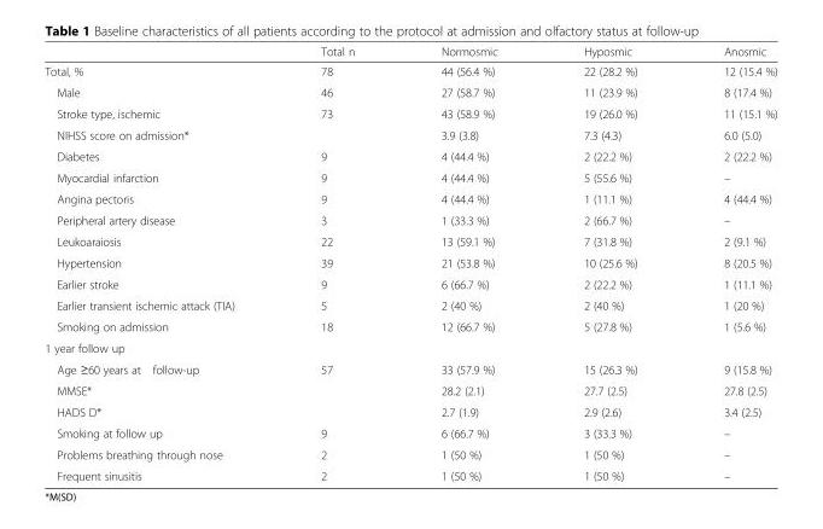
<table><thead><tr><td></td><td>Total n</td><td>Normosmic</td><td>Hyposmic</td><td>Anosmic</td></tr></thead><tbody><tr><td>Total, %</td><td>78</td><td>44 (56.4 %)</td><td>22 (28.2 %)</td><td>12 (15.4 %)</td></tr><tr><td>Male</td><td>46</td><td>27 (58.7 %)</td><td>11 (23.9 %)</td><td>8 (17.4 %)</td></tr><tr><td>Stroke type, ischemic</td><td>73</td><td>43 (58.9 %)</td><td>19 (26.0 %)</td><td>11 (15.1 %)</td></tr><tr><td>NIHSS score on admission*</td><td></td><td>3.9 (3.8)</td><td>7.3 (4.3)</td><td>6.0 (5.0)</td></tr><tr><td>Diabetes</td><td>9</td><td>4 (44.4 %)</td><td>2 (22.2 %)</td><td>2 (22.2 %)</td></tr><tr><td>Myocardial infarction</td><td>9</td><td>4 (44.4 %)</td><td>5 (55.6 %)</td><td>–</td></tr><tr><td>Angina pectoris</td><td>9</td><td>4 (44.4 %)</td><td>1 (11.1 %)</td><td>4 (44.4 %)</td></tr><tr><td>Peripheral artery disease</td><td>3</td><td>1 (33.3 %)</td><td>2 (66.7 %)</td><td>–</td></tr><tr><td>Leukoaraiosis</td><td>22</td><td>13 (59.1 %)</td><td>7 (31.8 %)</td><td>2 (9.1 %)</td></tr><tr><td>Hypertension</td><td>39</td><td>21 (53.8 %)</td><td>10 (25.6 %)</td><td>8 (20.5 %)</td></tr><tr><td>Earlier stroke</td><td>9</td><td>6 (66.7 %)</td><td>2 (22.2 %)</td><td>1 (11.1 %)</td></tr><tr><td>Earlier transient ischemic attack (TIA)</td><td>5</td><td>2 (40 %)</td><td>2 (40 %)</td><td>1 (20 %)</td></tr><tr><td>Smoking on admission</td><td>18</td><td>12 (66.7 %)</td><td>5 (27.8 %)</td><td>1 (5.6 %)</td></tr><tr><td colspan="5">1 year follow up</td></tr><tr><td>Age ≥60 years at follow-up</td><td>57</td><td>33 (57.9 %)</td><td>15 (26.3 %)</td><td>9 (15.8 %)</td></tr><tr><td>MMSE*</td><td></td><td>28.2 (2.1)</td><td>27.7 (2.5)</td><td>27.8 (2.5)</td></tr><tr><td>HADS D*</td><td></td><td>2.7 (1.9)</td><td>2.9 (2.6)</td><td>3.4 (2.5)</td></tr><tr><td>Smoking at follow up</td><td>9</td><td>6 (66.7 %)</td><td>3 (33.3 %)</td><td>–</td></tr><tr><td>Problems breathing through nose</td><td>2</td><td>1 (50 %)</td><td>1 (50 %)</td><td>–</td></tr><tr><td>Frequent sinusitis</td><td>2</td><td>1 (50 %)</td><td>1 (50 %)</td><td>–</td></tr></tbody></table>